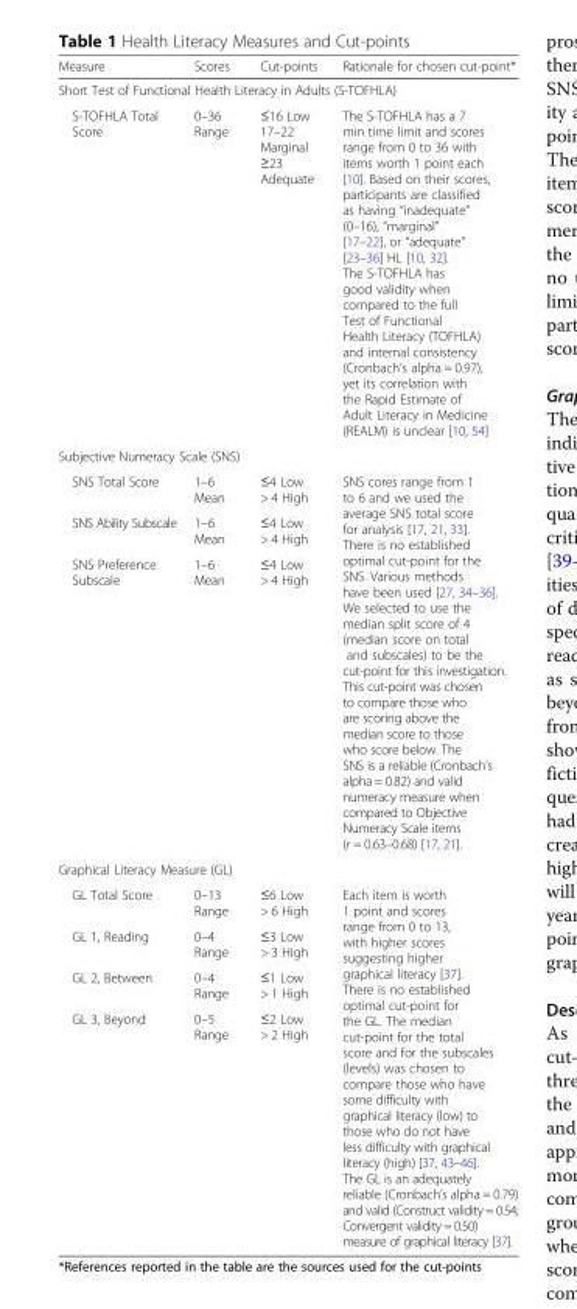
<table><thead><tr><td>Measure</td><td>Scores</td><td>Cut-points</td><td>Rationale for chosen cut-point*</td></tr></thead><tbody><tr><td colspan="4">Short Test of Functional Health Literacy in Adults (S-TOFHLA)</td></tr><tr><td>S-TOFHLA Total Score</td><td>0–36 Range</td><td>≤16 Low 17–22 Marginal ≥23 Adequate</td><td>The S-TOFHLA has a 7 min time limit and scores range from 0 to 36 with items worth 1 point each [10]. Based on their scores, participants are classified as having “inadequate” (0–16), “marginal” [17–22], or “adequate” [23–36] HL [10, 32]. The S-TOFHLA has good validity when compared to the full Test of Functional Health Literacy (TOFHLA) and internal consistency (Cronbach’s alpha = 0.97), yet its correlation with the Rapid Estimate of Adult Literacy in Medicine (REALM) is unclear [10, 54]</td></tr><tr><td colspan="4">Subjective Numeracy Scale (SNS)</td></tr><tr><td>SNS Total Score</td><td>1–6 Mean</td><td>≤4 Low &gt; 4 High</td><td rowspan="3">SNS cores range from 1 to 6 and we used the average SNS total score for analysis [17, 21, 33]. There is no established optimal cut-point for the SNS. Various methods have been used [27, 34–36]. We selected to use the median split score of 4 (median score on total and subscales) to be the cut-point for this investigation. This cut-point was chosen to compare those who are scoring above the median score to those who score below. The SNS is a reliable (Cronbach’s alpha = 0.82) and valid numeracy measure when compared to Objective Numeracy Scale items (r = 0.63–0.68) [17, 21].</td></tr><tr><td>SNS Ability Subscale</td><td>1–6 Mean</td><td>≤4 Low &gt; 4 High</td></tr><tr><td>SNS Preference Subscale</td><td>1–6 Mean</td><td>≤4 Low &gt; 4 High</td></tr><tr><td colspan="4">Graphical Literacy Measure (GL)</td></tr><tr><td>GL Total Score</td><td>0–13 Range</td><td>≤6 Low &gt; 6 High</td><td rowspan="4">Each item is worth 1 point and scores range from 0 to 13, with higher scores suggesting higher graphical literacy [37]. There is no established optimal cut-point for the GL. The median cut-point for the total score and for the subscales (levels) was chosen to compare those who have some difficulty with graphical literacy (low) to those who do not have less difficulty with graphical literacy (high) [37, 43–46]. The GL is an adequately reliable (Cronbach’s alpha = 0.79) and valid (Construct validity = 0.54; Convergent validity = 0.50) measure of graphical literacy [37].</td></tr><tr><td>GL 1, Reading</td><td>0–4 Range</td><td>≤3 Low &gt; 3 High</td></tr><tr><td>GL 2, Between</td><td>0–4 Range</td><td>≤1 Low &gt; 1 High</td></tr><tr><td>GL 3, Beyond</td><td>0–5 Range</td><td>≤2 Low &gt; 2 High</td></tr></tbody></table>